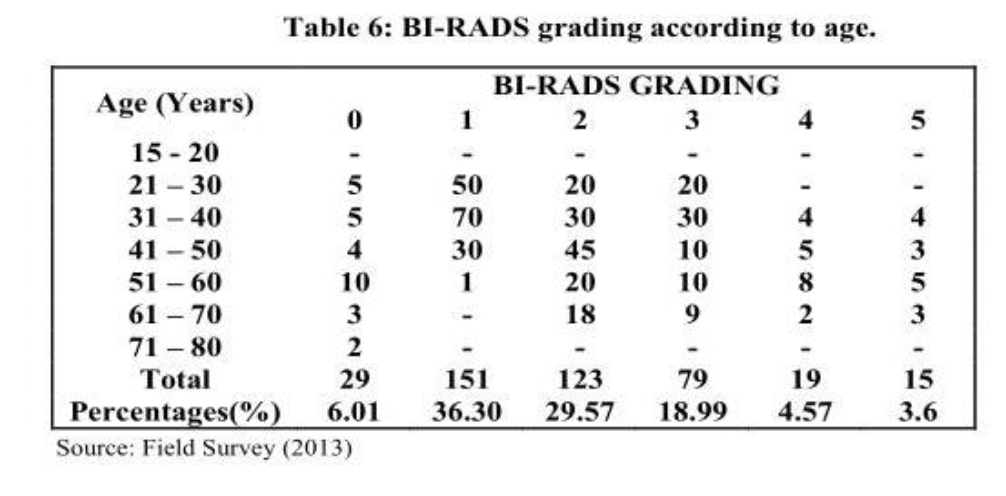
<table><thead><tr><td rowspan="2">Age (Years)</td><td colspan="6">BI-RADS GRADING</td></tr><tr><td>0</td><td>1</td><td>2</td><td>3</td><td>4</td><td>5</td></tr></thead><tbody><tr><td>15 - 20</td><td>-</td><td>-</td><td>-</td><td>-</td><td>-</td><td>-</td></tr><tr><td>21 – 30</td><td>5</td><td>50</td><td>20</td><td>20</td><td>-</td><td>-</td></tr><tr><td>31 – 40</td><td>5</td><td>70</td><td>30</td><td>30</td><td>4</td><td>4</td></tr><tr><td>41 – 50</td><td>4</td><td>30</td><td>45</td><td>10</td><td>5</td><td>3</td></tr><tr><td>51 – 60</td><td>10</td><td>1</td><td>20</td><td>10</td><td>8</td><td>5</td></tr><tr><td>61 – 70</td><td>3</td><td>-</td><td>18</td><td>9</td><td>2</td><td>3</td></tr><tr><td>71 – 80</td><td>2</td><td>-</td><td>-</td><td>-</td><td>-</td><td>-</td></tr><tr><td>Total</td><td>29</td><td>151</td><td>123</td><td>79</td><td>19</td><td>15</td></tr><tr><td>Percentages(%)</td><td>6.01</td><td>36.30</td><td>29.57</td><td>18.99</td><td>4.57</td><td>3.6</td></tr></tbody></table>